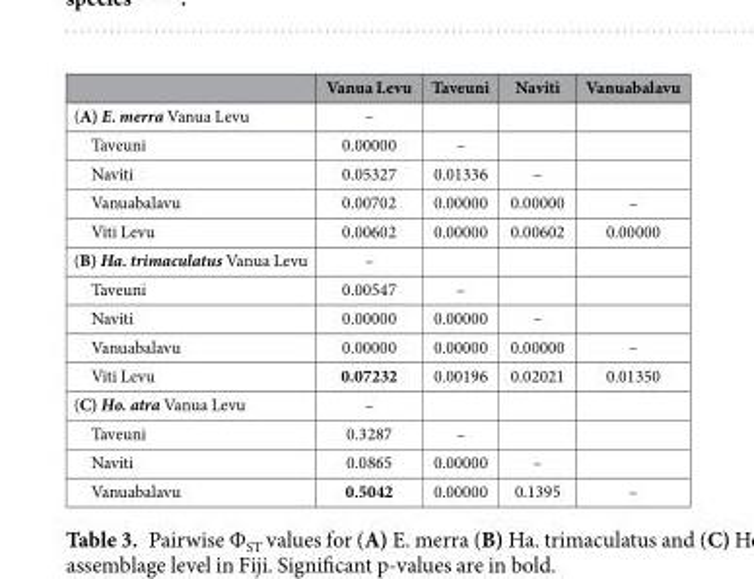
<table><thead><tr><td></td><td>Vanua Levu</td><td>Taveuni</td><td>Naviti</td><td>Vanuabalavu</td></tr></thead><tbody><tr><td>(A) E. merra Vanua Levu</td><td>–</td><td></td><td></td><td></td></tr><tr><td>Taveuni</td><td>0.00000</td><td>–</td><td></td><td></td></tr><tr><td>Naviti</td><td>0.05327</td><td>0.01336</td><td>–</td><td></td></tr><tr><td>Vanuabalavu</td><td>0.00702</td><td>0.00000</td><td>0.00000</td><td>–</td></tr><tr><td>Viti Levu</td><td>0.00602</td><td>0.00000</td><td>0.00602</td><td>0.00000</td></tr><tr><td>(B) Ha. trimaculatus Vanua Levu</td><td>–</td><td></td><td></td><td></td></tr><tr><td>Taveuni</td><td>0.00547</td><td>–</td><td></td><td></td></tr><tr><td>Naviti</td><td>0.00000</td><td>0.00000</td><td>–</td><td></td></tr><tr><td>Vanuabalavu</td><td>0.00000</td><td>0.00000</td><td>0.00000</td><td>–</td></tr><tr><td>Viti Levu</td><td>0.07232</td><td>0.00196</td><td>0.02021</td><td>0.01350</td></tr><tr><td>(C) Ho. atra Vanua Levu</td><td>–</td><td></td><td></td><td></td></tr><tr><td>Taveuni</td><td>0.3287</td><td>–</td><td></td><td></td></tr><tr><td>Naviti</td><td>0.0865</td><td>0.00000</td><td>–</td><td></td></tr><tr><td>Vanuabalavu</td><td>0.5042</td><td>0.00000</td><td>0.1395</td><td>–</td></tr></tbody></table>